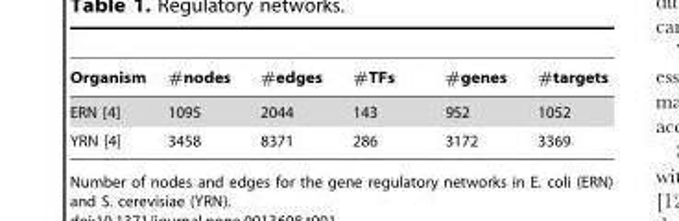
<table><thead><tr><td>Organism</td><td>#nodes</td><td>#edges</td><td>#TFs</td><td>#genes</td><td>#targets</td></tr></thead><tbody><tr><td>ERN [4]</td><td>1095</td><td>2044</td><td>143</td><td>952</td><td>1052</td></tr><tr><td>YRN [4]</td><td>3458</td><td>8371</td><td>286</td><td>3172</td><td>3369</td></tr></tbody></table>